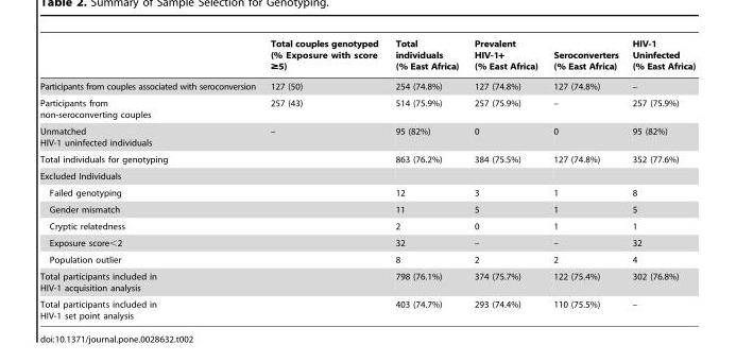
<table><thead><tr><td></td><td>Total couples genotyped (% Exposure with score ≥5)</td><td>Total individuals (% East Africa)</td><td>Prevalent HIV-1+ (% East Africa)</td><td>Seroconverters (% East Africa)</td><td>HIV-1 Uninfected (% East Africa)</td></tr></thead><tbody><tr><td>Participants from couples associated with seroconversion</td><td>127 (50)</td><td>254 (74.8%)</td><td>127 (74.8%)</td><td>127 (74.8%)</td><td>–</td></tr><tr><td>Participants from non-seroconverting couples</td><td>257 (43)</td><td>514 (75.9%)</td><td>257 (75.9%)</td><td>–</td><td>257 (75.9%)</td></tr><tr><td>Unmatched HIV-1 uninfected individuals</td><td>–</td><td>95 (82%)</td><td>0</td><td>0</td><td>95 (82%)</td></tr><tr><td>Total individuals for genotyping</td><td></td><td>863 (76.2%)</td><td>384 (75.5%)</td><td>127 (74.8%)</td><td>352 (77.6%)</td></tr><tr><td colspan="6">Excluded Individuals</td></tr><tr><td>Failed genotyping</td><td></td><td>12</td><td>3</td><td>1</td><td>8</td></tr><tr><td>Gender mismatch</td><td></td><td>11</td><td>5</td><td>1</td><td>5</td></tr><tr><td>Cryptic relatedness</td><td></td><td>2</td><td>0</td><td>1</td><td>1</td></tr><tr><td>Exposure score&lt;2</td><td></td><td>32</td><td>–</td><td>–</td><td>32</td></tr><tr><td>Population outlier</td><td></td><td>8</td><td>2</td><td>2</td><td>4</td></tr><tr><td>Total participants included in HIV-1 acquisition analysis</td><td></td><td>798 (76.1%)</td><td>374 (75.7%)</td><td>122 (75.4%)</td><td>302 (76.8%)</td></tr><tr><td>Total participants included in HIV-1 set point analysis</td><td></td><td>403 (74.7%)</td><td>293 (74.4%)</td><td>110 (75.5%)</td><td>–</td></tr></tbody></table>